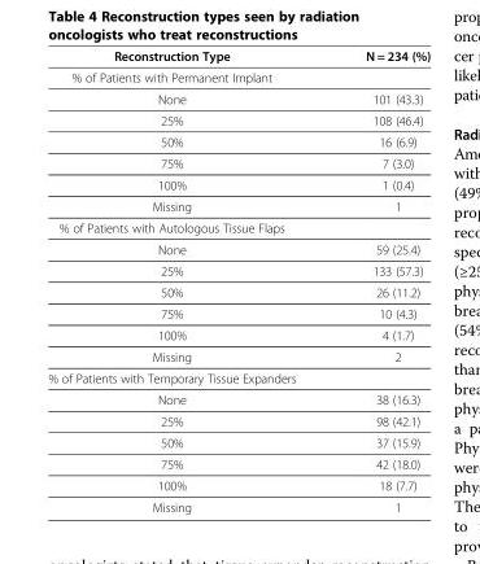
<table><thead><tr><td>Reconstruction Type</td><td>N = 234 (%)</td></tr></thead><tbody><tr><td colspan="2">% of Patients with Permanent Implant</td></tr><tr><td>None</td><td>101 (43.3)</td></tr><tr><td>25%</td><td>108 (46.4)</td></tr><tr><td>50%</td><td>16 (6.9)</td></tr><tr><td>75%</td><td>7 (3.0)</td></tr><tr><td>100%</td><td>1 (0.4)</td></tr><tr><td>Missing</td><td>1</td></tr><tr><td colspan="2">% of Patients with Autologous Tissue Flaps</td></tr><tr><td>None</td><td>59 (25.4)</td></tr><tr><td>25%</td><td>133 (57.3)</td></tr><tr><td>50%</td><td>26 (11.2)</td></tr><tr><td>75%</td><td>10 (4.3)</td></tr><tr><td>100%</td><td>4 (1.7)</td></tr><tr><td>Missing</td><td>2</td></tr><tr><td colspan="2">% of Patients with Temporary Tissue Expanders</td></tr><tr><td>None</td><td>38 (16.3)</td></tr><tr><td>25%</td><td>98 (42.1)</td></tr><tr><td>50%</td><td>37 (15.9)</td></tr><tr><td>75%</td><td>42 (18.0)</td></tr><tr><td>100%</td><td>18 (7.7)</td></tr><tr><td>Missing</td><td>1</td></tr></tbody></table>